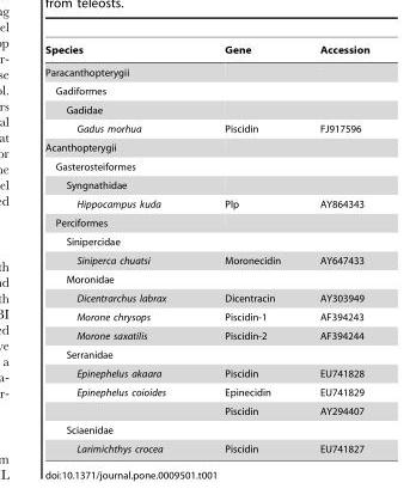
<table><thead><tr><td>Species</td><td>Gene</td><td>Accession</td></tr></thead><tbody><tr><td colspan="3">Paracanthopterygii</td></tr><tr><td colspan="3">Gadiformes</td></tr><tr><td colspan="3">Gadidae</td></tr><tr><td>Gadus morhua</td><td>Piscidin</td><td>FJ917596</td></tr><tr><td colspan="3">Acanthopterygii</td></tr><tr><td colspan="3">Gasterosteiformes</td></tr><tr><td colspan="3">Syngnathidae</td></tr><tr><td>Hippocampus kuda</td><td>Plp</td><td>AY864343</td></tr><tr><td colspan="3">Perciformes</td></tr><tr><td colspan="3">Sinipercidae</td></tr><tr><td>Siniperca chuatsi</td><td>Moronecidin</td><td>AY647433</td></tr><tr><td colspan="3">Moronidae</td></tr><tr><td>Dicentrarchus labrax</td><td>Dicentracin</td><td>AY303949</td></tr><tr><td>Morone chrysops</td><td>Piscidin-1</td><td>AF394243</td></tr><tr><td>Morone saxatilis</td><td>Piscidin-2</td><td>AF394244</td></tr><tr><td colspan="3">Serranidae</td></tr><tr><td>Epinephelus akaara</td><td>Piscidin</td><td>EU741828</td></tr><tr><td rowspan="2">Epinephelus coioides</td><td>Epinecidin</td><td>EU741829</td></tr><tr><td>Piscidin</td><td>AY294407</td></tr><tr><td colspan="3">Sciaenidae</td></tr><tr><td>Larimichthys crocea</td><td>Piscidin</td><td>EU741827</td></tr></tbody></table>